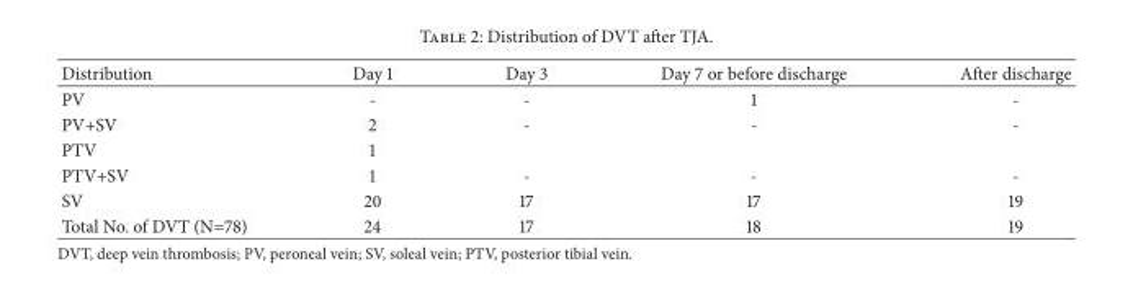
<table><thead><tr><td>Distribution</td><td>Day 1</td><td>Day 3</td><td>Day 7 or before discharge</td><td>After discharge</td></tr></thead><tbody><tr><td>PV</td><td>-</td><td>-</td><td>1</td><td>-</td></tr><tr><td>PV+SV</td><td>2</td><td>-</td><td>-</td><td>-</td></tr><tr><td>PTV</td><td>1</td><td></td><td></td><td></td></tr><tr><td>PTV+SV</td><td>1</td><td>-</td><td>-</td><td>-</td></tr><tr><td>SV</td><td>20</td><td>17</td><td>17</td><td>19</td></tr><tr><td>Total No. of DVT (N=78)</td><td>24</td><td>17</td><td>18</td><td>19</td></tr></tbody></table>